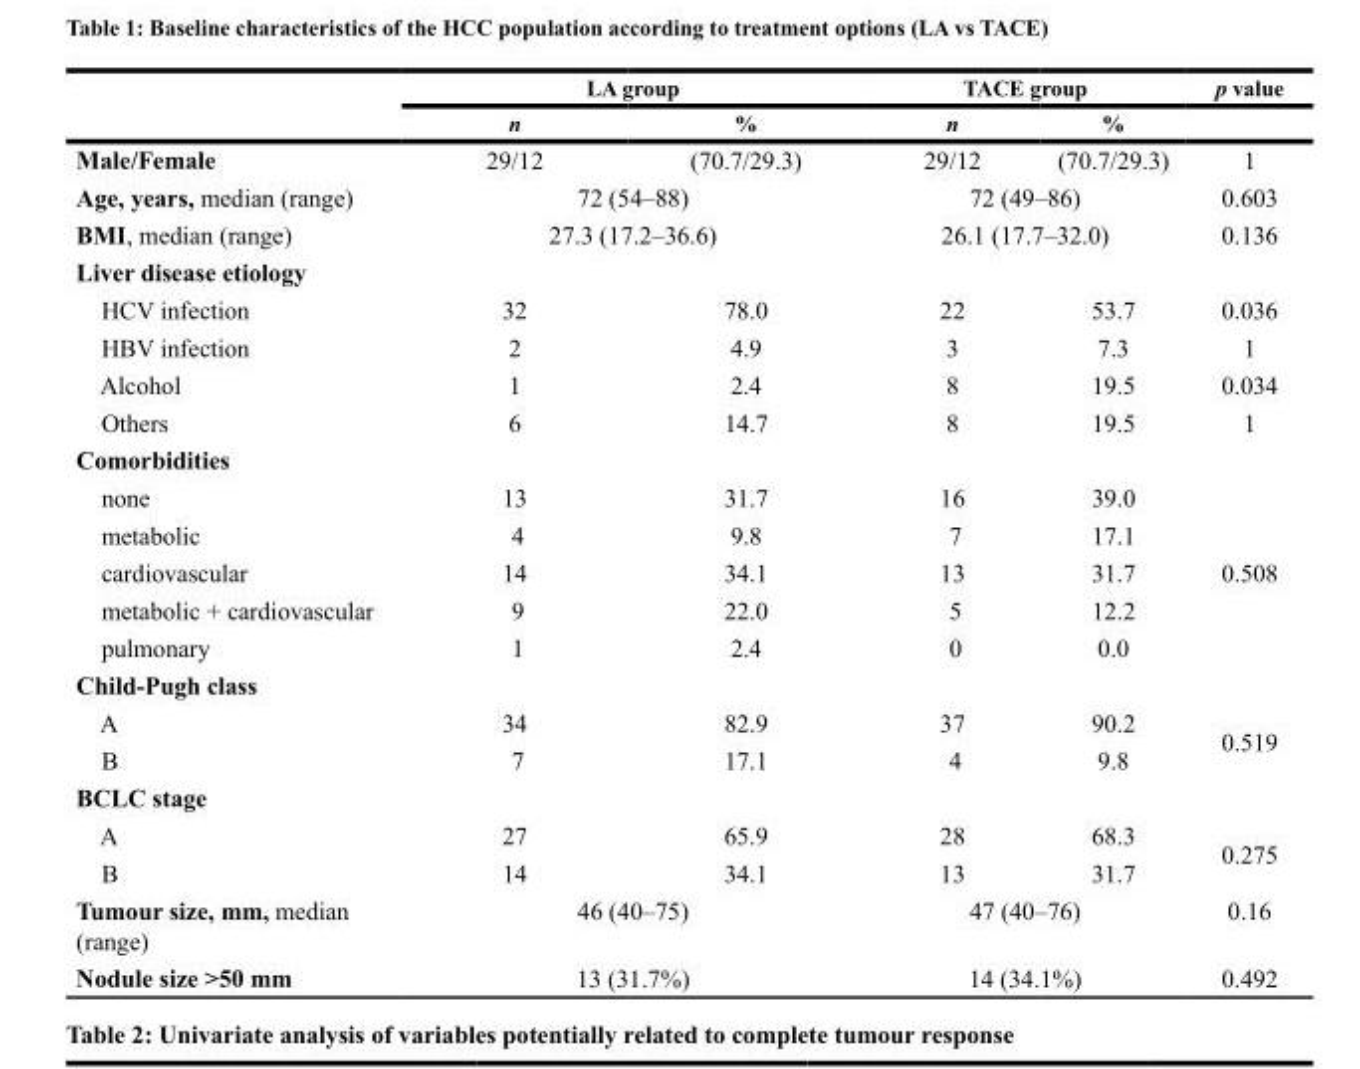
<table><thead><tr><td rowspan="2"></td><td colspan="2">LA group</td><td colspan="2">TACE group</td><td rowspan="2">p value</td></tr><tr><td>n</td><td>%</td><td>n</td><td>%</td></tr></thead><tbody><tr><td>Male/Female</td><td>29/12</td><td>(70.7/29.3)</td><td>29/12</td><td>(70.7/29.3)</td><td>1</td></tr><tr><td>Age, years, median (range)</td><td colspan="2">72 (54–88)</td><td colspan="2">72 (49–86)</td><td>0.603</td></tr><tr><td>BMI, median (range)</td><td colspan="2">27.3 (17.2–36.6)</td><td colspan="2">26.1 (17.7–32.0)</td><td>0.136</td></tr><tr><td colspan="6">Liver disease etiology</td></tr><tr><td>HCV infection</td><td>32</td><td>78.0</td><td>22</td><td>53.7</td><td>0.036</td></tr><tr><td>HBV infection</td><td>2</td><td>4.9</td><td>3</td><td>7.3</td><td>1</td></tr><tr><td>Alcohol</td><td>1</td><td>2.4</td><td>8</td><td>19.5</td><td>0.034</td></tr><tr><td>Others</td><td>6</td><td>14.7</td><td>8</td><td>19.5</td><td>1</td></tr><tr><td colspan="6">Comorbidities</td></tr><tr><td>none</td><td>13</td><td>31.7</td><td>16</td><td>39.0</td><td rowspan="5">0.508</td></tr><tr><td>metabolic</td><td>4</td><td>9.8</td><td>7</td><td>17.1</td></tr><tr><td>cardiovascular</td><td>14</td><td>34.1</td><td>13</td><td>31.7</td></tr><tr><td>metabolic + cardiovascular</td><td>9</td><td>22.0</td><td>5</td><td>12.2</td></tr><tr><td>pulmonary</td><td>1</td><td>2.4</td><td>0</td><td>0.0</td></tr><tr><td colspan="6">Child-Pugh class</td></tr><tr><td>A</td><td>34</td><td>82.9</td><td>37</td><td>90.2</td><td rowspan="2">0.519</td></tr><tr><td>B</td><td>7</td><td>17.1</td><td>4</td><td>9.8</td></tr><tr><td colspan="6">BCLC stage</td></tr><tr><td>A</td><td>27</td><td>65.9</td><td>28</td><td>68.3</td><td rowspan="2">0.275</td></tr><tr><td>B</td><td>14</td><td>34.1</td><td>13</td><td>31.7</td></tr><tr><td>Tumour size, mm, median (range)</td><td colspan="2">46 (40–75)</td><td colspan="2">47 (40–76)</td><td>0.16</td></tr><tr><td>Nodule size &gt;50 mm</td><td colspan="2">13 (31.7%)</td><td colspan="2">14 (34.1%)</td><td>0.492</td></tr></tbody></table>